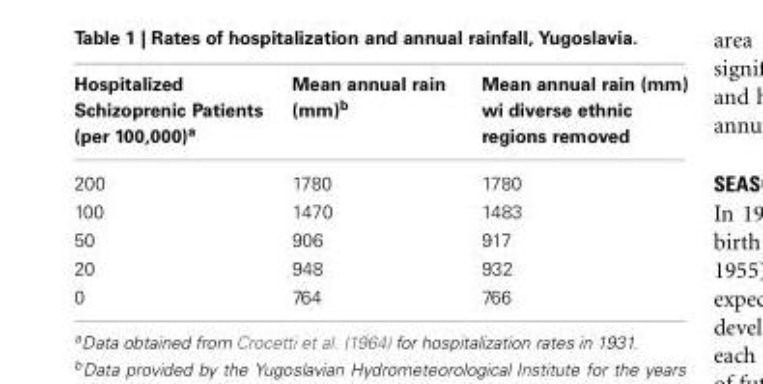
<table><thead><tr><td>Hospitalized Schizoprenic Patients (per 100,000)<sup>a</sup></td><td>Mean annual rain (mm)<sup>b</sup></td><td>Mean annual rain (mm) wi diverse ethnic regions removed</td></tr></thead><tbody><tr><td>200</td><td>1780</td><td>1780</td></tr><tr><td>100</td><td>1470</td><td>1483</td></tr><tr><td>50</td><td>906</td><td>917</td></tr><tr><td>20</td><td>948</td><td>932</td></tr><tr><td>0</td><td>764</td><td>766</td></tr></tbody></table>